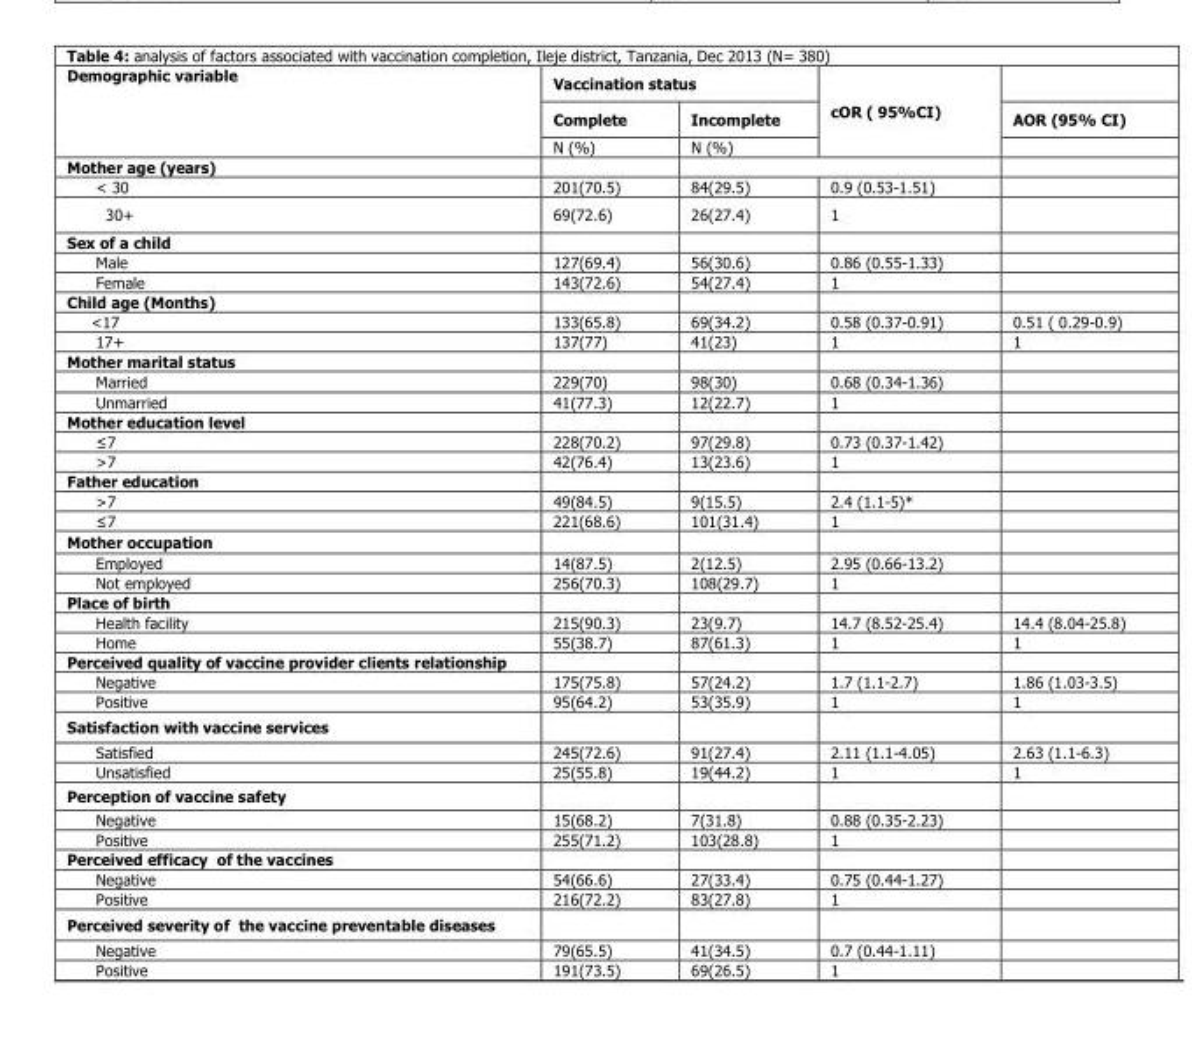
<table><thead><tr><td rowspan="3">Demographic variable</td><td colspan="2">Vaccination status</td><td rowspan="3">cOR ( 95%CI)</td><td rowspan="3">AOR (95% CI)</td></tr><tr><td rowspan="2">Complete N (%)</td><td rowspan="2">Incomplete N (%)</td></tr><tr></tr></thead><tbody><tr><td colspan="5">Mother age (years)</td></tr><tr><td>&lt; 30</td><td>201(70.5)</td><td>84(29.5)</td><td>0.9 (0.53-1.51)</td><td></td></tr><tr><td>30+</td><td>69(72.6)</td><td>26(27.4)</td><td>1</td><td></td></tr><tr><td colspan="5">Sex of a child</td></tr><tr><td>Male</td><td>127(69.4)</td><td>56(30.6)</td><td>0.86 (0.55-1.33)</td><td></td></tr><tr><td>Female</td><td>143(72.6)</td><td>54(27.4)</td><td>1</td><td></td></tr><tr><td colspan="5">Child age (Months)</td></tr><tr><td>&lt;17</td><td>133(65.8)</td><td>69(34.2)</td><td>0.58 (0.37-0.91)</td><td>0.51 ( 0.29-0.9)</td></tr><tr><td>17+</td><td>137(77)</td><td>41(23)</td><td>1</td><td>1</td></tr><tr><td colspan="5">Mother marital status</td></tr><tr><td>Married</td><td>229(70)</td><td>98(30)</td><td>0.68 (0.34-1.36)</td><td></td></tr><tr><td>Unmarried</td><td>41(77.3)</td><td>12(22.7)</td><td>1</td><td></td></tr><tr><td colspan="5">Mother education level</td></tr><tr><td>≤7</td><td>228(70.2)</td><td>97(29.8)</td><td>0.73 (0.37-1.42)</td><td></td></tr><tr><td>&gt;7</td><td>42(76.4)</td><td>13(23.6)</td><td>1</td><td></td></tr><tr><td colspan="5">Father education</td></tr><tr><td>&gt;7</td><td>49(84.5)</td><td>9(15.5)</td><td>2.4 (1.1-5)*</td><td></td></tr><tr><td>≤7</td><td>221(68.6)</td><td>101(31.4)</td><td>1</td><td></td></tr><tr><td colspan="5">Mother occupation</td></tr><tr><td>Employed</td><td>14(87.5)</td><td>2(12.5)</td><td>2.95 (0.66-13.2)</td><td></td></tr><tr><td>Not employed</td><td>256(70.3)</td><td>108(29.7)</td><td>1</td><td></td></tr><tr><td colspan="5">Place of birth</td></tr><tr><td>Health facility</td><td>215(90.3)</td><td>23(9.7)</td><td>14.7 (8.52-25.4)</td><td>14.4 (8.04-25.8)</td></tr><tr><td>Home</td><td>55(38.7)</td><td>87(61.3)</td><td>1</td><td>1</td></tr><tr><td colspan="5">Perceived quality of vaccine provider clients relationship</td></tr><tr><td>Negative</td><td>175(75.8)</td><td>57(24.2)</td><td>1.7 (1.1-2.7)</td><td>1.86 (1.03-3.5)</td></tr><tr><td>Positive</td><td>95(64.2)</td><td>53(35.9)</td><td>1</td><td>1</td></tr><tr><td colspan="5">Satisfaction with vaccine services</td></tr><tr><td>Satisfied</td><td>245(72.6)</td><td>91(27.4)</td><td>2.11 (1.1-4.05)</td><td>2.63 (1.1-6.3)</td></tr><tr><td>Unsatisfied</td><td>25(55.8)</td><td>19(44.2)</td><td>1</td><td>1</td></tr><tr><td colspan="5">Perception of vaccine safety</td></tr><tr><td>Negative</td><td>15(68.2)</td><td>7(31.8)</td><td>0.88 (0.35-2.23)</td><td></td></tr><tr><td>Positive</td><td>255(71.2)</td><td>103(28.8)</td><td>1</td><td></td></tr><tr><td colspan="5">Perceived efficacy of the vaccines</td></tr><tr><td>Negative</td><td>54(66.6)</td><td>27(33.4)</td><td>0.75 (0.44-1.27)</td><td></td></tr><tr><td>Positive</td><td>216(72.2)</td><td>83(27.8)</td><td>1</td><td></td></tr><tr><td colspan="5">Perceived severity of the vaccine preventable diseases</td></tr><tr><td>Negative</td><td>79(65.5)</td><td>41(34.5)</td><td>0.7 (0.44-1.11)</td><td></td></tr><tr><td>Positive</td><td>191(73.5)</td><td>69(26.5)</td><td>1</td><td></td></tr></tbody></table>